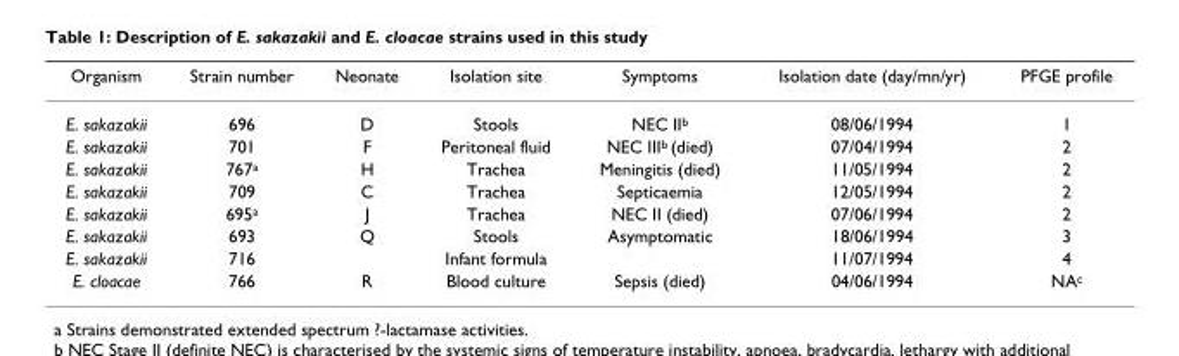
<table><thead><tr><td>Organism</td><td>Strain number</td><td>Neonate</td><td>Isolation site</td><td>Symptoms</td><td>Isolation date (day/mn/yr)</td><td>PFGE profile</td></tr></thead><tbody><tr><td>E. sakazakii</td><td>696</td><td>D</td><td>Stools</td><td>NEC II<sup>b</sup></td><td>08/06/1994</td><td>1</td></tr><tr><td>E. sakazakii</td><td>701</td><td>F</td><td>Peritoneal fluid</td><td>NEC III<sup>b</sup> (died)</td><td>07/04/1994</td><td>2</td></tr><tr><td>E. sakazakii</td><td>767<sup>a</sup></td><td>H</td><td>Trachea</td><td>Meningitis (died)</td><td>11/05/1994</td><td>2</td></tr><tr><td>E. sakazakii</td><td>709</td><td>C</td><td>Trachea</td><td>Septicaemia</td><td>12/05/1994</td><td>2</td></tr><tr><td>E. sakazakii</td><td>695<sup>a</sup></td><td>J</td><td>Trachea</td><td>NEC II (died)</td><td>07/06/1994</td><td>2</td></tr><tr><td>E. sakazakii</td><td>693</td><td>Q</td><td>Stools</td><td>Asymptomatic</td><td>18/06/1994</td><td>3</td></tr><tr><td>E. sakazakii</td><td>716</td><td></td><td>Infant formula</td><td></td><td>11/07/1994</td><td>4</td></tr><tr><td>E. cloacae</td><td>766</td><td>R</td><td>Blood culture</td><td>Sepsis (died)</td><td>04/06/1994</td><td>NA<sup>c</sup></td></tr></tbody></table>